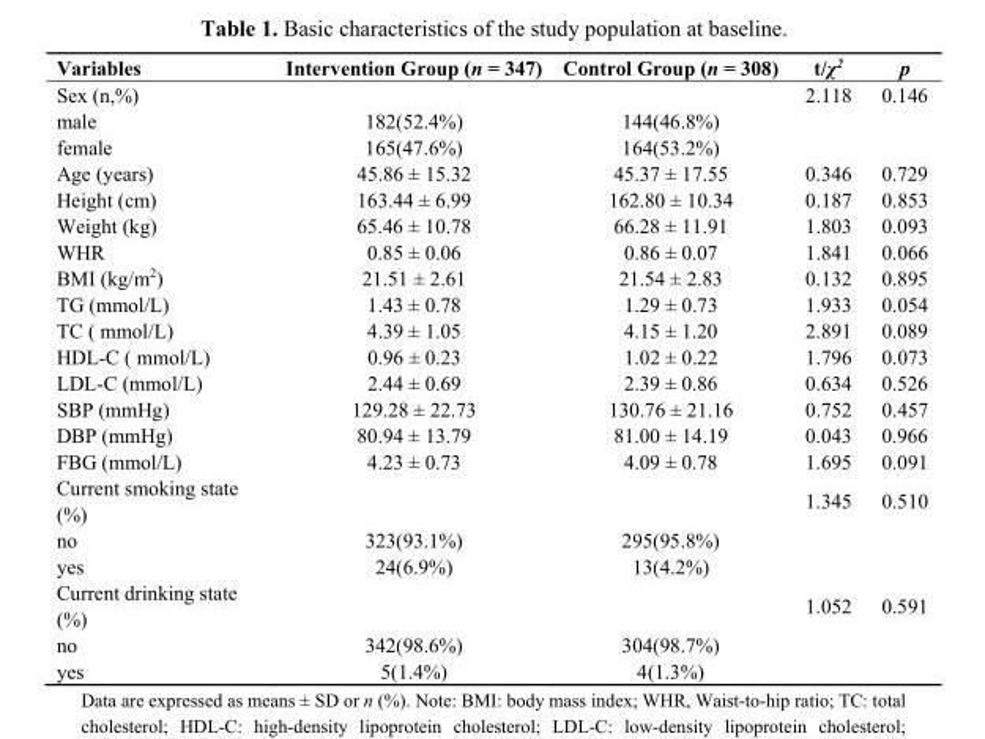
<table><thead><tr><td>Variables</td><td>Intervention Group (n = 347)</td><td>Control Group (n = 308)</td><td>t/χ<sup>2</sup></td><td>p</td></tr></thead><tbody><tr><td>Sex (n,%)</td><td></td><td></td><td>2.118</td><td>0.146</td></tr><tr><td>male</td><td>182(52.4%)</td><td>144(46.8%)</td><td></td><td></td></tr><tr><td>female</td><td>165(47.6%)</td><td>164(53.2%)</td><td></td><td></td></tr><tr><td>Age (years)</td><td>45.86 ± 15.32</td><td>45.37 ± 17.55</td><td>0.346</td><td>0.729</td></tr><tr><td>Height (cm)</td><td>163.44 ± 6.99</td><td>162.80 ± 10.34</td><td>0.187</td><td>0.853</td></tr><tr><td>Weight (kg)</td><td>65.46 ± 10.78</td><td>66.28 ± 11.91</td><td>1.803</td><td>0.093</td></tr><tr><td>WHR</td><td>0.85 ± 0.06</td><td>0.86 ± 0.07</td><td>1.841</td><td>0.066</td></tr><tr><td>BMI (kg/m<sup>2</sup>)</td><td>21.51 ± 2.61</td><td>21.54 ± 2.83</td><td>0.132</td><td>0.895</td></tr><tr><td>TG (mmol/L)</td><td>1.43 ± 0.78</td><td>1.29 ± 0.73</td><td>1.933</td><td>0.054</td></tr><tr><td>TC ( mmol/L)</td><td>4.39 ± 1.05</td><td>4.15 ± 1.20</td><td>2.891</td><td>0.089</td></tr><tr><td>HDL-C ( mmol/L)</td><td>0.96 ± 0.23</td><td>1.02 ± 0.22</td><td>1.796</td><td>0.073</td></tr><tr><td>LDL-C (mmol/L)</td><td>2.44 ± 0.69</td><td>2.39 ± 0.86</td><td>0.634</td><td>0.526</td></tr><tr><td>SBP (mmHg)</td><td>129.28 ± 22.73</td><td>130.76 ± 21.16</td><td>0.752</td><td>0.457</td></tr><tr><td>DBP (mmHg)</td><td>80.94 ± 13.79</td><td>81.00 ± 14.19</td><td>0.043</td><td>0.966</td></tr><tr><td>FBG (mmol/L)</td><td>4.23 ± 0.73</td><td>4.09 ± 0.78</td><td>1.695</td><td>0.091</td></tr><tr><td>Current smoking state (%)</td><td></td><td></td><td>1.345</td><td>0.510</td></tr><tr><td>no</td><td>323(93.1%)</td><td>295(95.8%)</td><td></td><td></td></tr><tr><td>yes</td><td>24(6.9%)</td><td>13(4.2%)</td><td></td><td></td></tr><tr><td>Current drinking state (%)</td><td></td><td></td><td>1.052</td><td>0.591</td></tr><tr><td>no</td><td>342(98.6%)</td><td>304(98.7%)</td><td></td><td></td></tr><tr><td>yes</td><td>5(1.4%)</td><td>4(1.3%)</td><td></td><td></td></tr></tbody></table>